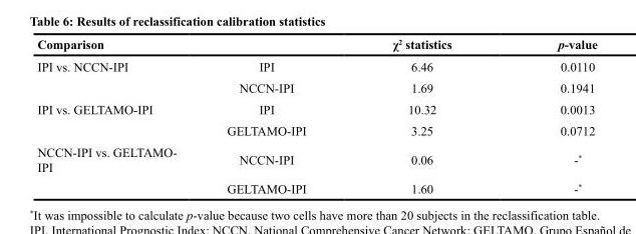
<table><thead><tr><td>Comparison</td><td></td><td>χ<sup>2</sup> statistics</td><td>p-value</td></tr></thead><tbody><tr><td rowspan="2">IPI vs. NCCN-IPI</td><td>IPI</td><td>6.46</td><td>0.0110</td></tr><tr><td>NCCN-IPI</td><td>1.69</td><td>0.1941</td></tr><tr><td rowspan="2">IPI vs. GELTAMO-IPI</td><td>IPI</td><td>10.32</td><td>0.0013</td></tr><tr><td>GELTAMO-IPI</td><td>3.25</td><td>0.0712</td></tr><tr><td rowspan="2">NCCN-IPI vs. GELTAMO- IPI</td><td>NCCN-IPI</td><td>0.06</td><td>-*</td></tr><tr><td>GELTAMO-IPI</td><td>1.60</td><td>-*</td></tr></tbody></table>